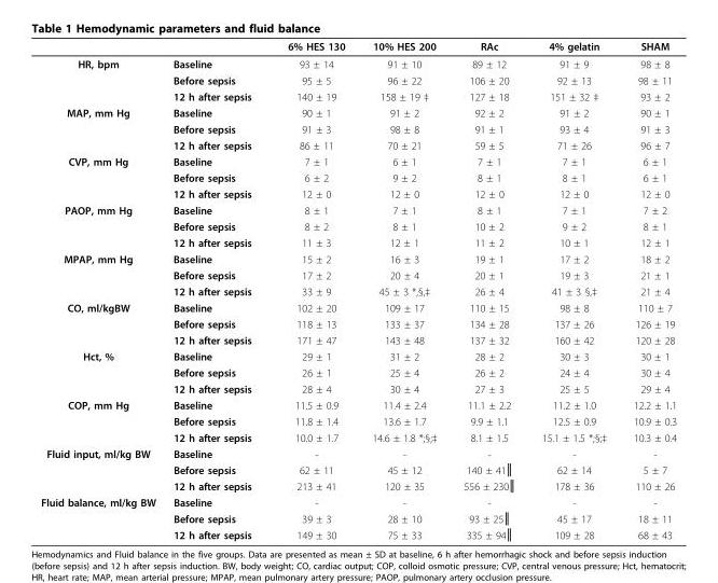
<table><thead><tr><td></td><td></td><td>6% HES 130</td><td>10% HES 200</td><td>RAc</td><td>4% gelatin</td><td>SHAM</td></tr></thead><tbody><tr><td rowspan="3">HR, bpm</td><td>Baseline</td><td>93 ± 14</td><td>91 ± 10</td><td>89 ± 12</td><td>91 ± 9</td><td>98 ± 8</td></tr><tr><td>Before sepsis</td><td>95 ± 5</td><td>96 ± 22</td><td>106 ± 20</td><td>92 ± 13</td><td>98 ± 11</td></tr><tr><td>12 h after sepsis</td><td>140 ± 19</td><td>158 ± 19 ‡</td><td>127 ± 18</td><td>151 ± 32 ‡</td><td>93 ± 2</td></tr><tr><td rowspan="3">MAP, mm Hg</td><td>Baseline</td><td>90 ± 1</td><td>91 ± 2</td><td>92 ± 2</td><td>91 ± 2</td><td>90 ± 1</td></tr><tr><td>Before sepsis</td><td>91 ± 3</td><td>98 ± 8</td><td>91 ± 1</td><td>93 ± 4</td><td>91 ± 3</td></tr><tr><td>12 h after sepsis</td><td>86 ± 11</td><td>70 ± 21</td><td>59 ± 5</td><td>71 ± 26</td><td>96 ± 7</td></tr><tr><td rowspan="3">CVP, mm Hg</td><td>Baseline</td><td>7 ± 1</td><td>6 ± 1</td><td>7 ± 1</td><td>7 ± 1</td><td>6 ± 1</td></tr><tr><td>Before sepsis</td><td>6 ± 2</td><td>9 ± 2</td><td>8 ± 1</td><td>8 ± 1</td><td>6 ± 1</td></tr><tr><td>12 h after sepsis</td><td>12 ± 0</td><td>12 ± 0</td><td>12 ± 0</td><td>12 ± 0</td><td>12 ± 0</td></tr><tr><td rowspan="3">PAOP, mm Hg</td><td>Baseline</td><td>8 ± 1</td><td>7 ± 1</td><td>8 ± 1</td><td>7 ± 1</td><td>7 ± 2</td></tr><tr><td>Before sepsis</td><td>8 ± 2</td><td>8 ± 1</td><td>10 ± 2</td><td>9 ± 2</td><td>8 ± 1</td></tr><tr><td>12 h after sepsis</td><td>11 ± 3</td><td>12 ± 1</td><td>11 ± 2</td><td>10 ± 1</td><td>12 ± 1</td></tr><tr><td rowspan="3">MPAP, mm Hg</td><td>Baseline</td><td>15 ± 2</td><td>16 ± 3</td><td>19 ± 1</td><td>17 ± 2</td><td>18 ± 2</td></tr><tr><td>Before sepsis</td><td>17 ± 2</td><td>20 ± 4</td><td>20 ± 1</td><td>19 ± 3</td><td>21 ± 1</td></tr><tr><td>12 h after sepsis</td><td>33 ± 9</td><td>45 ± 3 *,§,‡</td><td>26 ± 4</td><td>41 ± 3 §,‡</td><td>21 ± 4</td></tr><tr><td rowspan="3">CO, ml/kgBW</td><td>Baseline</td><td>102 ± 20</td><td>109 ± 17</td><td>110 ± 15</td><td>98 ± 8</td><td>110 ± 7</td></tr><tr><td>Before sepsis</td><td>118 ± 13</td><td>133 ± 37</td><td>134 ± 28</td><td>137 ± 26</td><td>126 ± 19</td></tr><tr><td>12 h after sepsis</td><td>171 ± 47</td><td>143 ± 48</td><td>137 ± 32</td><td>160 ± 42</td><td>120 ± 28</td></tr><tr><td rowspan="3">Hct, %</td><td>Baseline</td><td>29 ± 1</td><td>31 ± 2</td><td>28 ± 2</td><td>30 ± 3</td><td>30 ± 1</td></tr><tr><td>Before sepsis</td><td>26 ± 1</td><td>25 ± 4</td><td>26 ± 2</td><td>24 ± 4</td><td>30 ± 4</td></tr><tr><td>12 h after sepsis</td><td>28 ± 4</td><td>30 ± 4</td><td>27 ± 3</td><td>25 ± 5</td><td>29 ± 4</td></tr><tr><td rowspan="3">COP, mm Hg</td><td>Baseline</td><td>11.5 ± 0.9</td><td>11.4 ± 2.4</td><td>11.1 ± 2.2</td><td>11.2 ± 1.0</td><td>12.2 ± 1.1</td></tr><tr><td>Before sepsis</td><td>11.8 ± 1.4</td><td>13.6 ± 1.7</td><td>9.9 ± 1.1</td><td>12.5 ± 0.9</td><td>10.9 ± 0.3</td></tr><tr><td>12 h after sepsis</td><td>10.0 ± 1.7</td><td>14.6 ± 1.8 *;§;‡</td><td>8.1 ± 1.5</td><td>15.1 ± 1.5 *;§;‡</td><td>10.3 ± 0.4</td></tr><tr><td rowspan="3">Fluid input, ml/kg BW</td><td>Baseline</td><td>-</td><td>-</td><td>-</td><td>-</td><td>-</td></tr><tr><td>Before sepsis</td><td>62 ± 11</td><td>45 ± 12</td><td>140 ± 41║</td><td>62 ± 14</td><td>5 ± 7</td></tr><tr><td>12 h after sepsis</td><td>213 ± 41</td><td>120 ± 35</td><td>556 ± 230║</td><td>178 ± 36</td><td>110 ± 26</td></tr><tr><td rowspan="3">Fluid balance, ml/kg BW</td><td>Baseline</td><td>-</td><td>-</td><td>-</td><td>-</td><td>-</td></tr><tr><td>Before sepsis</td><td>39 ± 3</td><td>28 ± 10</td><td>93 ± 25║</td><td>45 ± 17</td><td>18 ± 11</td></tr><tr><td>12 h after sepsis</td><td>149 ± 30</td><td>75 ± 33</td><td>335 ± 94║</td><td>109 ± 28</td><td>68 ± 43</td></tr></tbody></table>